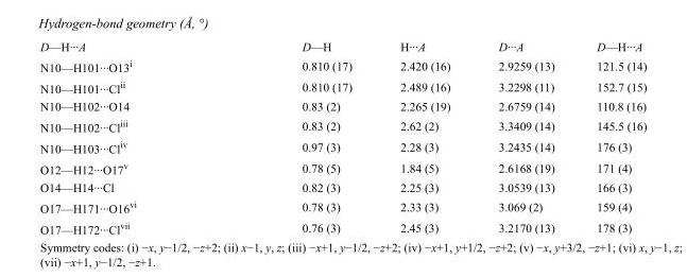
<table><tbody><tr><td>D—H···A</td><td>D—H</td><td>H···A</td><td>D···A</td><td>D—H···A</td></tr><tr><td>N10—H101···O13<sup>i</sup></td><td>0.810 (17)</td><td>2.420 (16)</td><td>2.9259 (13)</td><td>121.5 (14)</td></tr><tr><td>N10—H101···Cl<sup>ii</sup></td><td>0.810 (17)</td><td>2.489 (16)</td><td>3.2298 (11)</td><td>152.7 (15)</td></tr><tr><td>N10—H102···O14</td><td>0.83 (2)</td><td>2.265 (19)</td><td>2.6759 (14)</td><td>110.8 (16)</td></tr><tr><td>N10—H102···Cl<sup>iii</sup></td><td>0.83 (2)</td><td>2.62 (2)</td><td>3.3409 (14)</td><td>145.5 (16)</td></tr><tr><td>N10—H103···Cl<sup>iv</sup></td><td>0.97 (3)</td><td>2.28 (3)</td><td>3.2435 (14)</td><td>176 (3)</td></tr><tr><td>O12—H12···O17<sup>v</sup></td><td>0.78 (5)</td><td>1.84 (5)</td><td>2.6168 (19)</td><td>171 (4)</td></tr><tr><td>O14—H14···Cl</td><td>0.82 (3)</td><td>2.25 (3)</td><td>3.0539 (13)</td><td>166 (3)</td></tr><tr><td>O17—H171···O16<sup>vi</sup></td><td>0.78 (3)</td><td>2.33 (3)</td><td>3.069 (2)</td><td>159 (4)</td></tr><tr><td>O17—H172···Cl<sup>vii</sup></td><td>0.76 (3)</td><td>2.45 (3)</td><td>3.2170 (13)</td><td>178 (3)</td></tr></tbody></table>